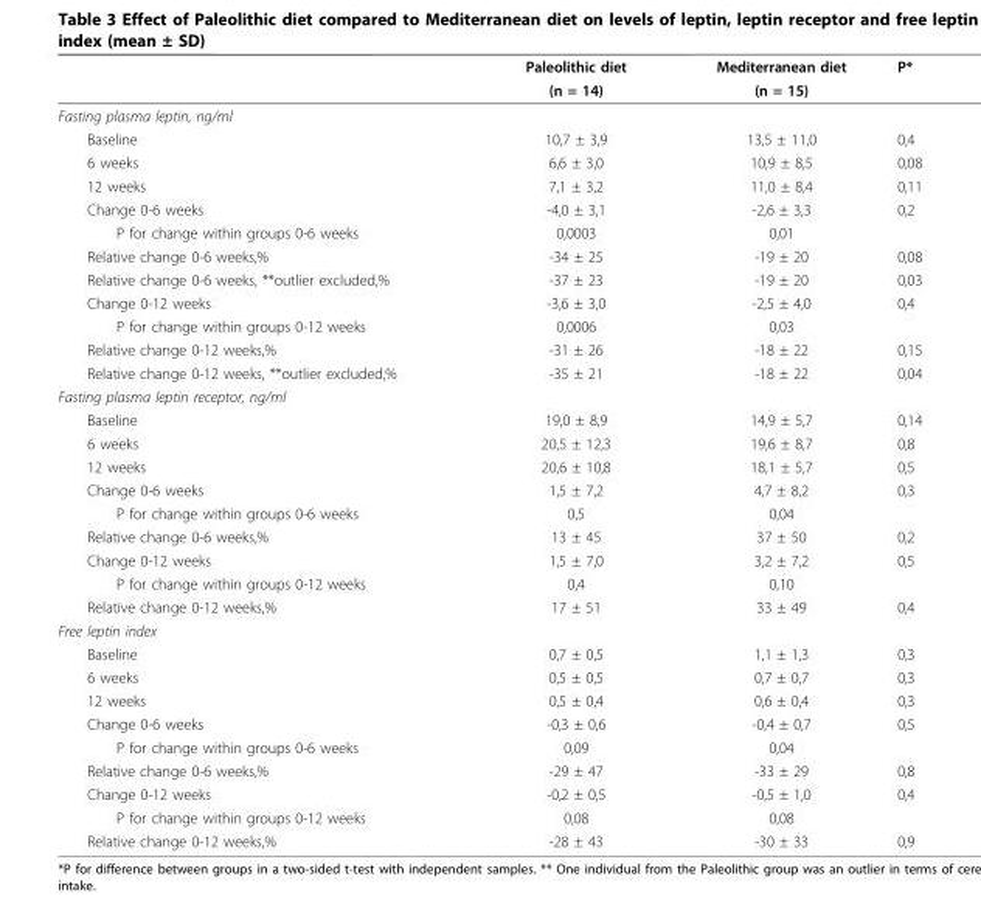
<table><thead><tr><td rowspan="2"></td><td rowspan="2">Paleolithic diet (n = 14)</td><td rowspan="2">Mediterranean diet (n = 15)</td><td rowspan="2">P*</td></tr><tr></tr></thead><tbody><tr><td colspan="4">Fasting plasma leptin, ng/ml</td></tr><tr><td>Baseline</td><td>10,7 ± 3,9</td><td>13,5 ± 11,0</td><td>0,4</td></tr><tr><td>6 weeks</td><td>6,6 ± 3,0</td><td>10,9 ± 8,5</td><td>0,08</td></tr><tr><td>12 weeks</td><td>7,1 ± 3,2</td><td>11,0 ± 8,4</td><td>0,11</td></tr><tr><td>Change 0-6 weeks</td><td>-4,0 ± 3,1</td><td>-2,6 ± 3,3</td><td>0,2</td></tr><tr><td>P for change within groups 0-6 weeks</td><td>0,0003</td><td>0,01</td><td></td></tr><tr><td>Relative change 0-6 weeks,%</td><td>-34 ± 25</td><td>-19 ± 20</td><td>0,08</td></tr><tr><td>Relative change 0-6 weeks, **outlier excluded,%</td><td>-37 ± 23</td><td>-19 ± 20</td><td>0,03</td></tr><tr><td>Change 0-12 weeks</td><td>-3,6 ± 3,0</td><td>-2,5 ± 4,0</td><td>0,4</td></tr><tr><td>P for change within groups 0-12 weeks</td><td>0,0006</td><td>0,03</td><td></td></tr><tr><td>Relative change 0-12 weeks,%</td><td>-31 ± 26</td><td>-18 ± 22</td><td>0,15</td></tr><tr><td>Relative change 0-12 weeks, **outlier excluded,%</td><td>-35 ± 21</td><td>-18 ± 22</td><td>0,04</td></tr><tr><td colspan="4">Fasting plasma leptin receptor, ng/ml</td></tr><tr><td>Baseline</td><td>19,0 ± 8,9</td><td>14,9 ± 5,7</td><td>0,14</td></tr><tr><td>6 weeks</td><td>20,5 ± 12,3</td><td>19,6 ± 8,7</td><td>0,8</td></tr><tr><td>12 weeks</td><td>20,6 ± 10,8</td><td>18,1 ± 5,7</td><td>0,5</td></tr><tr><td>Change 0-6 weeks</td><td>1,5 ± 7,2</td><td>4,7 ± 8,2</td><td>0,3</td></tr><tr><td>P for change within groups 0-6 weeks</td><td>0,5</td><td>0,04</td><td></td></tr><tr><td>Relative change 0-6 weeks,%</td><td>13 ± 45</td><td>37 ± 50</td><td>0,2</td></tr><tr><td>Change 0-12 weeks</td><td>1,5 ± 7,0</td><td>3,2 ± 7,2</td><td>0,5</td></tr><tr><td>P for change within groups 0-12 weeks</td><td>0,4</td><td>0,10</td><td></td></tr><tr><td>Relative change 0-12 weeks,%</td><td>17 ± 51</td><td>33 ± 49</td><td>0,4</td></tr><tr><td colspan="4">Free leptin index</td></tr><tr><td>Baseline</td><td>0,7 ± 0,5</td><td>1,1 ± 1,3</td><td>0,3</td></tr><tr><td>6 weeks</td><td>0,5 ± 0,5</td><td>0,7 ± 0,7</td><td>0,3</td></tr><tr><td>12 weeks</td><td>0,5 ± 0,4</td><td>0,6 ± 0,4</td><td>0,3</td></tr><tr><td>Change 0-6 weeks</td><td>-0,3 ± 0,6</td><td>-0,4 ± 0,7</td><td>0,5</td></tr><tr><td>P for change within groups 0-6 weeks</td><td>0,09</td><td>0,04</td><td></td></tr><tr><td>Relative change 0-6 weeks,%</td><td>-29 ± 47</td><td>-33 ± 29</td><td>0,8</td></tr><tr><td>Change 0-12 weeks</td><td>-0,2 ± 0,5</td><td>-0,5 ± 1,0</td><td>0,4</td></tr><tr><td>P for change within groups 0-12 weeks</td><td>0,08</td><td>0,08</td><td></td></tr><tr><td>Relative change 0-12 weeks,%</td><td>-28 ± 43</td><td>-30 ± 33</td><td>0,9</td></tr></tbody></table>